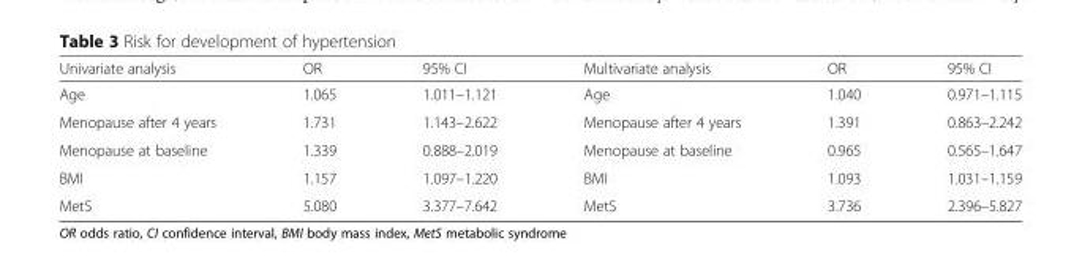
<table><thead><tr><td>Univariate analysis</td><td>OR</td><td>95% CI</td><td>Multivariate analysis</td><td>OR</td><td>95% CI</td></tr></thead><tbody><tr><td>Age</td><td>1.065</td><td>1.011–1.121</td><td>Age</td><td>1.040</td><td>0.971–1.115</td></tr><tr><td>Menopause after 4 years</td><td>1.731</td><td>1.143–2.622</td><td>Menopause after 4 years</td><td>1.391</td><td>0.863–2.242</td></tr><tr><td>Menopause at baseline</td><td>1.339</td><td>0.888–2.019</td><td>Menopause at baseline</td><td>0.965</td><td>0.565–1.647</td></tr><tr><td>BMI</td><td>1.157</td><td>1.097–1.220</td><td>BMI</td><td>1.093</td><td>1.031–1.159</td></tr><tr><td>MetS</td><td>5.080</td><td>3.377–7.642</td><td>MetS</td><td>3.736</td><td>2.396–5.827</td></tr></tbody></table>